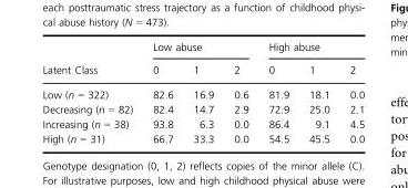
<table><thead><tr><td rowspan="2">Latent Class</td><td colspan="3">Low abuse</td><td colspan="3">High abuse</td></tr><tr><td>0</td><td>1</td><td>2</td><td>0</td><td>1</td><td>2</td></tr></thead><tbody><tr><td>Low (n = 322)</td><td>82.6</td><td>16.9</td><td>0.6</td><td>81.9</td><td>18.1</td><td>0.0</td></tr><tr><td>Decreasing (n = 82)</td><td>82.4</td><td>14.7</td><td>2.9</td><td>72.9</td><td>25.0</td><td>2.1</td></tr><tr><td>Increasing (n = 38)</td><td>93.8</td><td>6.3</td><td>0.0</td><td>86.4</td><td>9.1</td><td>4.5</td></tr><tr><td>High (n = 31)</td><td>66.7</td><td>33.3</td><td>0.0</td><td>54.5</td><td>45.5</td><td>0.0</td></tr></tbody></table>